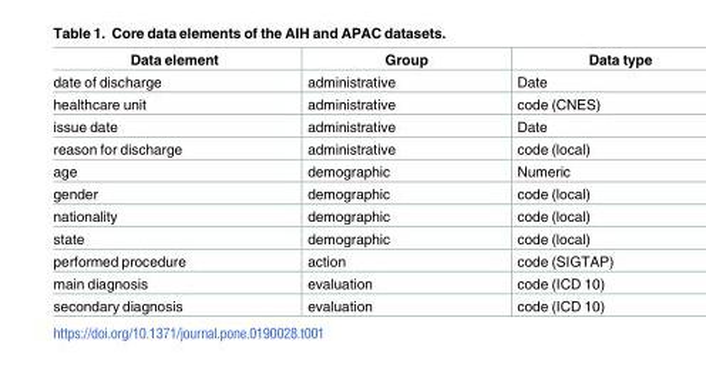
<table><thead><tr><td>Data element</td><td>Group</td><td>Data type</td></tr></thead><tbody><tr><td>date of discharge</td><td>administrative</td><td>Date</td></tr><tr><td>healthcare unit</td><td>administrative</td><td>code (CNES)</td></tr><tr><td>issue date</td><td>administrative</td><td>Date</td></tr><tr><td>reason for discharge</td><td>administrative</td><td>code (local)</td></tr><tr><td>age</td><td>demographic</td><td>Numeric</td></tr><tr><td>gender</td><td>demographic</td><td>code (local)</td></tr><tr><td>nationality</td><td>demographic</td><td>code (local)</td></tr><tr><td>state</td><td>demographic</td><td>code (local)</td></tr><tr><td>performed procedure</td><td>action</td><td>code (SIGTAP)</td></tr><tr><td>main diagnosis</td><td>evaluation</td><td>code (ICD 10)</td></tr><tr><td>secondary diagnosis</td><td>evaluation</td><td>code (ICD 10)</td></tr></tbody></table>